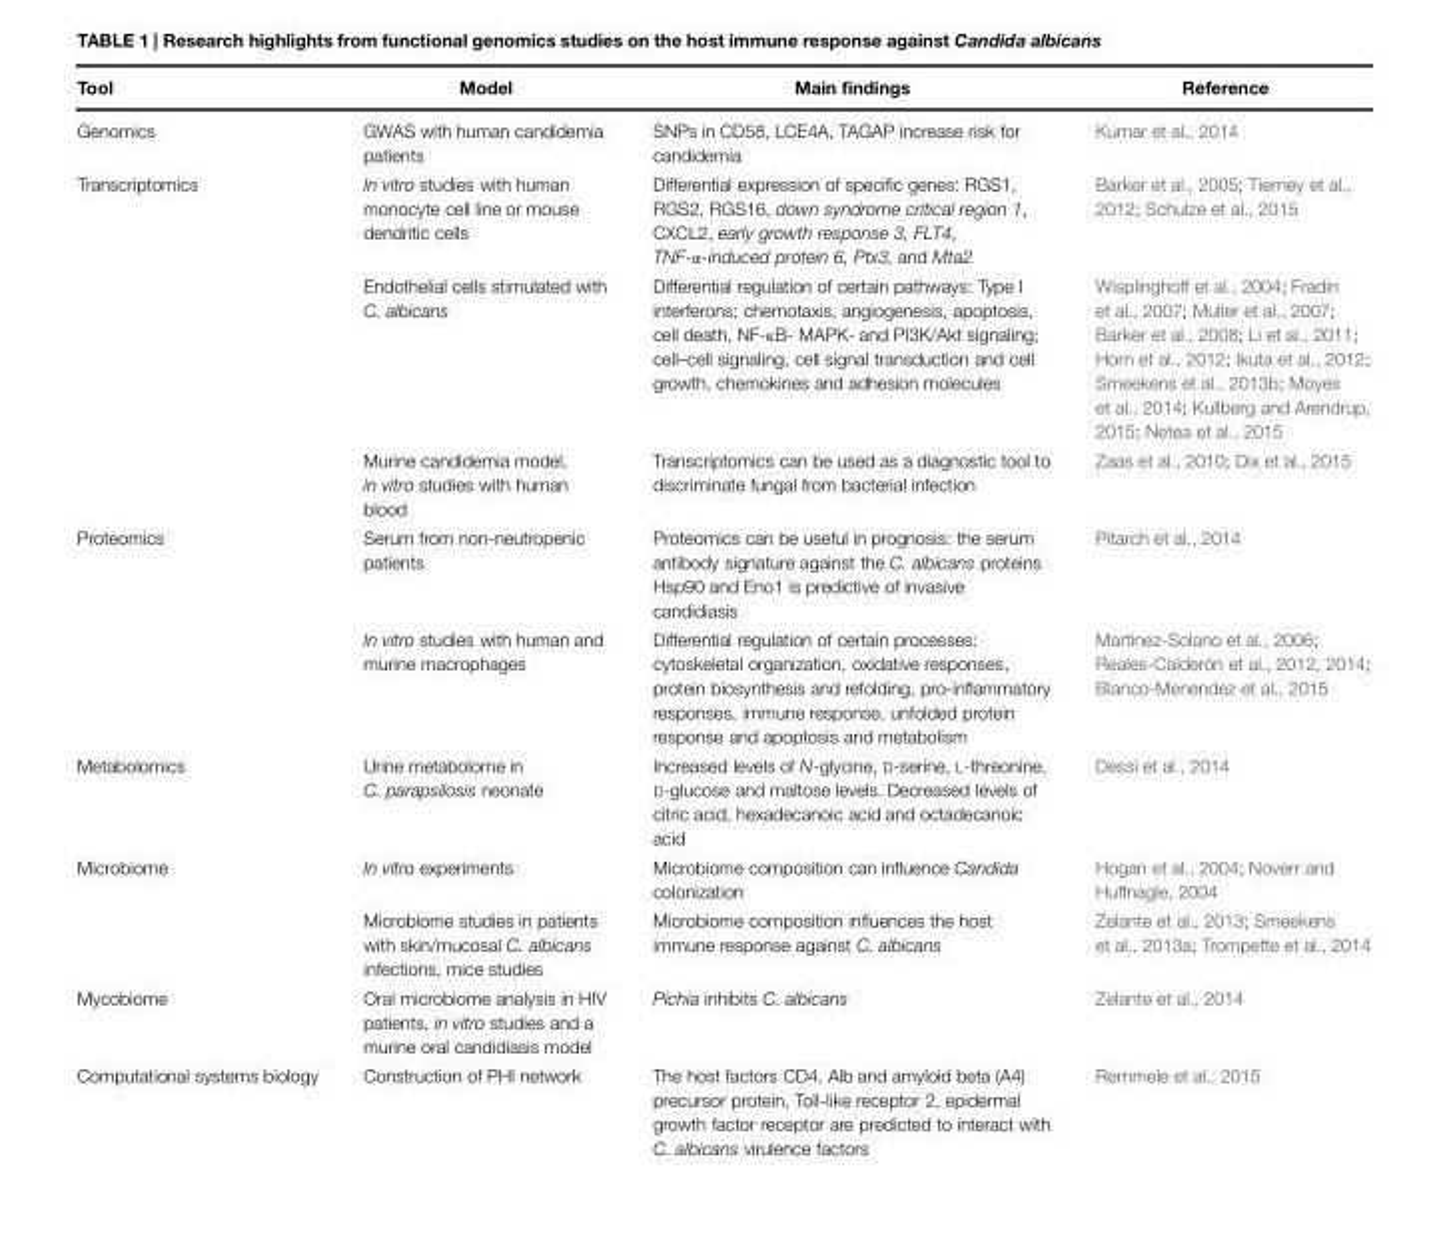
<table><thead><tr><td>Tool</td><td>Model</td><td>Main findings</td><td>Reference</td></tr></thead><tbody><tr><td>Genomics</td><td>GWAS with human candidemia patients</td><td>SNPs in CD58, LCE4A, TAGAP increase risk for candidemia</td><td>Kumar et al., 2014</td></tr><tr><td rowspan="3">Transcriptomics</td><td>In vitro studies with human monocyte cell line or mouse dendritic cells</td><td>Differential expression of specific genes: RGS1, RGS2, RGS16, down syndrome critical region 1, CXCL2, early growth response 3, FLT4, TNF-α-induced protein 6, Ptx3, and Mta2</td><td>Barker et al., 2005; Tierney et al., 2012; Schulze et al., 2015</td></tr><tr><td>Endothelial cells stimulated with C. albicans</td><td>Differential regulation of certain pathways: Type I interferons; chemotaxis, angiogenesis, apoptosis, cell death, NF-κB- MAPK- and PI3K/Akt signaling; cell–cell signaling, cell signal transduction and cell growth, chemokines and adhesion molecules</td><td>Wisplinghoff et al., 2004; Fradin et al., 2007; Muller et al., 2007; Barker et al., 2008; Li et al., 2011; Horn et al., 2012; Ikuta et al., 2012; Smeekens et al., 2013b; Moyes et al., 2014; Kullberg and Arendrup, 2015; Netea et al., 2015</td></tr><tr><td>Murine candidemia model, in vitro studies with human blood</td><td>Transcriptomics can be used as a diagnostic tool to discriminate fungal from bacterial infection</td><td>Zaas et al., 2010; Dix et al., 2015</td></tr><tr><td rowspan="2">Proteomics</td><td>Serum from non-neutropenic patients</td><td>Proteomics can be useful in prognosis: the serum antibody signature against the C. albicans proteins Hsp90 and Eno1 is predictive of invasive candidiasis</td><td>Pitarch et al., 2014</td></tr><tr><td>In vitro studies with human and murine macrophages</td><td>Differential regulation of certain processes: cytoskeletal organization, oxidative responses, protein biosynthesis and refolding, pro-inflammatory responses, immune response, unfolded protein response and apoptosis and metabolism</td><td>Martínez-Solano et al., 2006; Reales-Calderón et al., 2012, 2014; Blanco-Menendez et al., 2015</td></tr><tr><td>Metabolomics</td><td>Urine metabolome in C. parapsilosis neonate</td><td>Increased levels of N-glycine, D-serine, L-threonine, D-glucose and maltose levels. Decreased levels of citric acid, hexadecanoic acid and octadecanoic acid</td><td>Dessì et al., 2014</td></tr><tr><td rowspan="2">Microbiome</td><td>In vitro experiments</td><td>Microbiome composition can influence Candida colonization</td><td>Hogan et al., 2004; Noverr and Huffnagle, 2004</td></tr><tr><td>Microbiome studies in patients with skin/mucosal C. albicans infections, mice studies</td><td>Microbiome composition influences the host immune response against C. albicans</td><td>Zelante et al., 2013; Smeekens et al., 2013a; Trompette et al., 2014</td></tr><tr><td>Mycobiome</td><td>Oral microbiome analysis in HIV patients, in vitro studies and a murine oral candidiasis model</td><td>Pichia inhibits C. albicans</td><td>Zelante et al., 2014</td></tr><tr><td>Computational systems biology</td><td>Construction of PHI network</td><td>The host factors CD4, Alb and amyloid beta (A4) precursor protein, Toll-like receptor 2, epidermal growth factor receptor are predicted to interact with C. albicans virulence factors</td><td>Remmele et al., 2015</td></tr></tbody></table>